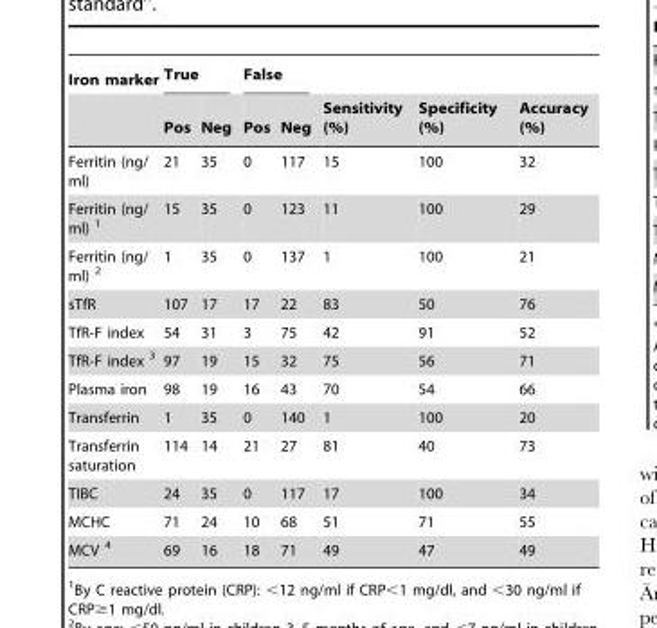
<table><thead><tr><td rowspan="2">Iron marker</td><td colspan="2">True</td><td colspan="2">False</td><td rowspan="2">Sensitivity (%)</td><td rowspan="2">Specificity (%)</td><td rowspan="2">Accuracy (%)</td></tr><tr><td>Pos</td><td>Neg</td><td>Pos</td><td>Neg</td></tr></thead><tbody><tr><td>Ferritin (ng/ ml)</td><td>21</td><td>35</td><td>0</td><td>117</td><td>15</td><td>100</td><td>32</td></tr><tr><td>Ferritin (ng/ ml) 1</td><td>15</td><td>35</td><td>0</td><td>123</td><td>11</td><td>100</td><td>29</td></tr><tr><td>Ferritin (ng/ ml) 2</td><td>1</td><td>35</td><td>0</td><td>137</td><td>1</td><td>100</td><td>21</td></tr><tr><td>sTfR</td><td>107</td><td>17</td><td>17</td><td>22</td><td>83</td><td>50</td><td>76</td></tr><tr><td>TfR-F index</td><td>54</td><td>31</td><td>3</td><td>75</td><td>42</td><td>91</td><td>52</td></tr><tr><td>TfR-F index 3</td><td>97</td><td>19</td><td>15</td><td>32</td><td>75</td><td>56</td><td>71</td></tr><tr><td>Plasma iron</td><td>98</td><td>19</td><td>16</td><td>43</td><td>70</td><td>54</td><td>66</td></tr><tr><td>Transferrin</td><td>1</td><td>35</td><td>0</td><td>140</td><td>1</td><td>100</td><td>20</td></tr><tr><td>Transferrin saturation</td><td>114</td><td>14</td><td>21</td><td>27</td><td>81</td><td>40</td><td>73</td></tr><tr><td>TIBC</td><td>24</td><td>35</td><td>0</td><td>117</td><td>17</td><td>100</td><td>34</td></tr><tr><td>MCHC</td><td>71</td><td>24</td><td>10</td><td>68</td><td>51</td><td>71</td><td>55</td></tr><tr><td>MCV 4</td><td>69</td><td>16</td><td>18</td><td>71</td><td>49</td><td>47</td><td>49</td></tr></tbody></table>